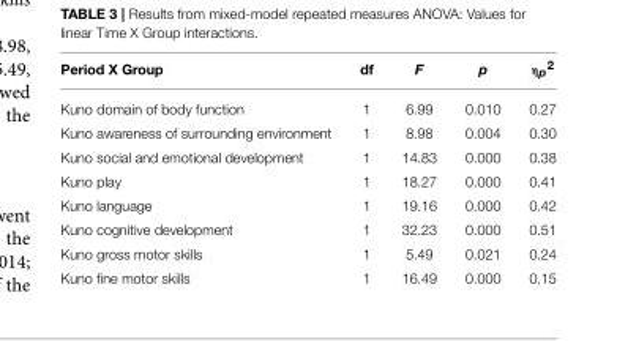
<table><thead><tr><td>Period X Group</td><td>df</td><td>F</td><td>p</td><td>ηp2</td></tr></thead><tbody><tr><td>Kuno domain of body function</td><td>1</td><td>6.99</td><td>0.010</td><td>0.27</td></tr><tr><td>Kuno awareness of surrounding environment</td><td>1</td><td>8.98</td><td>0.004</td><td>0.30</td></tr><tr><td>Kuno social and emotional development</td><td>1</td><td>14.83</td><td>0.000</td><td>0.38</td></tr><tr><td>Kuno play</td><td>1</td><td>18.27</td><td>0.000</td><td>0.41</td></tr><tr><td>Kuno language</td><td>1</td><td>19.16</td><td>0.000</td><td>0.42</td></tr><tr><td>Kuno cognitive development</td><td>1</td><td>32.23</td><td>0.000</td><td>0.51</td></tr><tr><td>Kuno gross motor skills</td><td>1</td><td>5.49</td><td>0.021</td><td>0.24</td></tr><tr><td>Kuno fine motor skills</td><td>1</td><td>16.49</td><td>0.000</td><td>0.15</td></tr></tbody></table>